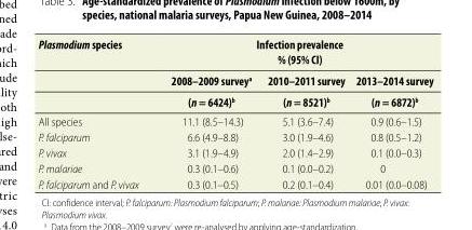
<table><thead><tr><td rowspan="3">Plasmodium species</td><td colspan="3">Infection prevalence % (95% CI)</td></tr><tr><td rowspan="2">2008–2009 survey<sup>a</sup> (n = 6424)<sup>b</sup></td><td rowspan="2">2010–2011 survey (n = 8521)<sup>b</sup></td><td rowspan="2">2013–2014 survey (n = 6872)<sup>b</sup></td></tr><tr></tr></thead><tbody><tr><td>All species</td><td>11.1 (8.5–14.3)</td><td>5.1 (3.6–7.4)</td><td>0.9 (0.6–1.5)</td></tr><tr><td>P. falciparum</td><td>6.6 (4.9–8.8)</td><td>3.0 (1.9–4.6)</td><td>0.8 (0.5–1.2)</td></tr><tr><td>P. vivax</td><td>3.1 (1.9–4.9)</td><td>2.0 (1.4–2.9)</td><td>0.1 (0.0–0.3)</td></tr><tr><td>P. malariae</td><td>0.3 (0.1–0.6)</td><td>0.1 (0.0–0.2)</td><td>0</td></tr><tr><td>P. falciparum and P. vivax</td><td>0.3 (0.1–0.5)</td><td>0.2 (0.1–0.4)</td><td>0.01 (0.0–0.08)</td></tr></tbody></table>